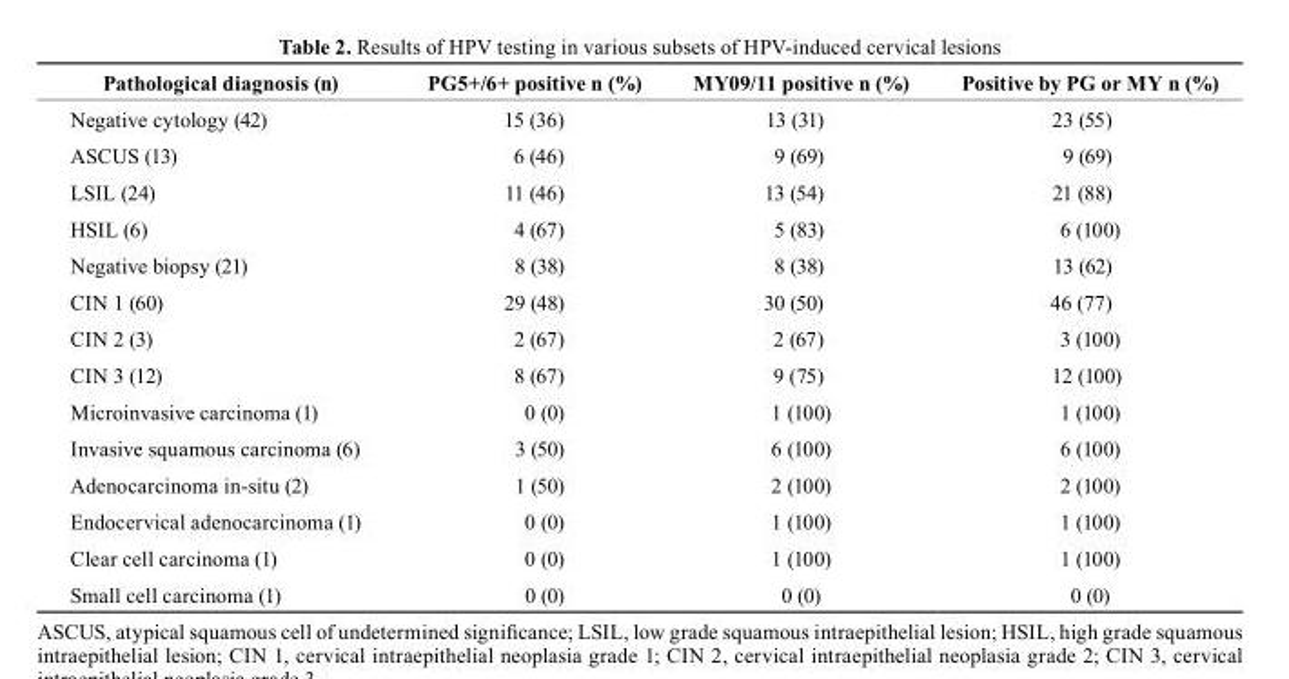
<table><thead><tr><td>Pathological diagnosis (n)</td><td>PG5+/6+ positive n (%)</td><td>MY09/11 positive n (%)</td><td>Positive by PG or MY n (%)</td></tr></thead><tbody><tr><td>Negative cytology (42)</td><td>15 (36)</td><td>13 (31)</td><td>23 (55)</td></tr><tr><td>ASCUS (13)</td><td>6 (46)</td><td>9 (69)</td><td>9 (69)</td></tr><tr><td>LSIL (24)</td><td>11 (46)</td><td>13 (54)</td><td>21 (88)</td></tr><tr><td>HSIL (6)</td><td>4 (67)</td><td>5 (83)</td><td>6 (100)</td></tr><tr><td>Negative biopsy (21)</td><td>8 (38)</td><td>8 (38)</td><td>13 (62)</td></tr><tr><td>CIN 1 (60)</td><td>29 (48)</td><td>30 (50)</td><td>46 (77)</td></tr><tr><td>CIN 2 (3)</td><td>2 (67)</td><td>2 (67)</td><td>3 (100)</td></tr><tr><td>CIN 3 (12)</td><td>8 (67)</td><td>9 (75)</td><td>12 (100)</td></tr><tr><td>Microinvasive carcinoma (1)</td><td>0 (0)</td><td>1 (100)</td><td>1 (100)</td></tr><tr><td>Invasive squamous carcinoma (6)</td><td>3 (50)</td><td>6 (100)</td><td>6 (100)</td></tr><tr><td>Adenocarcinoma in-situ (2)</td><td>1 (50)</td><td>2 (100)</td><td>2 (100)</td></tr><tr><td>Endocervical adenocarcinoma (1)</td><td>0 (0)</td><td>1 (100)</td><td>1 (100)</td></tr><tr><td>Clear cell carcinoma (1)</td><td>0 (0)</td><td>1 (100)</td><td>1 (100)</td></tr><tr><td>Small cell carcinoma (1)</td><td>0 (0)</td><td>0 (0)</td><td>0 (0)</td></tr></tbody></table>